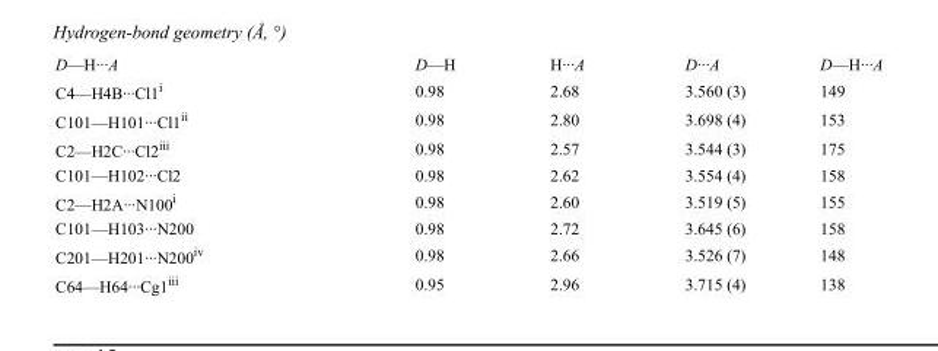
<table><tbody><tr><td>D—H···A</td><td>D—H</td><td>H···A</td><td>D···A</td><td>D—H···A</td></tr><tr><td>C4—H4B···Cl1<sup>i</sup></td><td>0.98</td><td>2.68</td><td>3.560 (3)</td><td>149</td></tr><tr><td>C101—H101···Cl1<sup>ii</sup></td><td>0.98</td><td>2.80</td><td>3.698 (4)</td><td>153</td></tr><tr><td>C2—H2C···Cl2<sup>iii</sup></td><td>0.98</td><td>2.57</td><td>3.544 (3)</td><td>175</td></tr><tr><td>C101—H102···Cl2</td><td>0.98</td><td>2.62</td><td>3.554 (4)</td><td>158</td></tr><tr><td>C2—H2A···N100<sup>i</sup></td><td>0.98</td><td>2.60</td><td>3.519 (5)</td><td>155</td></tr><tr><td>C101—H103···N200</td><td>0.98</td><td>2.72</td><td>3.645 (6)</td><td>158</td></tr><tr><td>C201—H201···N200<sup>iv</sup></td><td>0.98</td><td>2.66</td><td>3.526 (7)</td><td>148</td></tr><tr><td>C64—H64···Cg1<sup>iii</sup></td><td>0.95</td><td>2.96</td><td>3.715 (4)</td><td>138</td></tr></tbody></table>